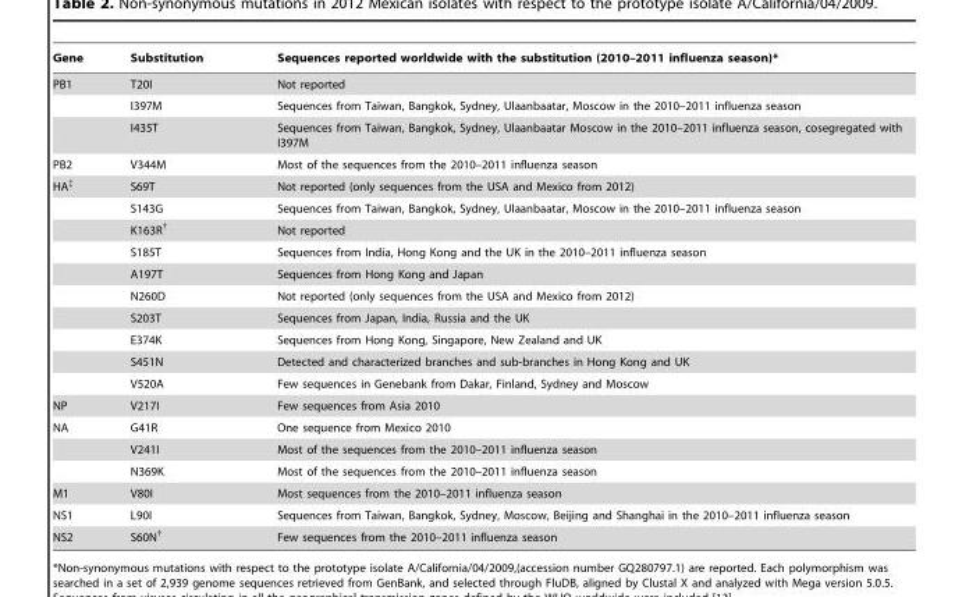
<table><thead><tr><td>Gene</td><td>Substitution</td><td>Sequences reported worldwide with the substitution (2010–2011 influenza season)*</td></tr></thead><tbody><tr><td rowspan="3">PB1</td><td>T20I</td><td>Not reported</td></tr><tr><td>I397M</td><td>Sequences from Taiwan, Bangkok, Sydney, Ulaanbaatar, Moscow in the 2010–2011 influenza season</td></tr><tr><td>I435T</td><td>Sequences from Taiwan, Bangkok, Sydney, Ulaanbaatar Moscow in the 2010–2011 influenza season, cosegregated with I397M</td></tr><tr><td>PB2</td><td>V344M</td><td>Most of the sequences from the 2010–2011 influenza season</td></tr><tr><td rowspan="10">HA‡</td><td>S69T</td><td>Not reported (only sequences from the USA and Mexico from 2012)</td></tr><tr><td>S143G</td><td>Sequences from Taiwan, Bangkok, Sydney, Ulaanbaatar, Moscow in the 2010–2011 influenza season</td></tr><tr><td>K163R†</td><td>Not reported</td></tr><tr><td>S185T</td><td>Sequences from India, Hong Kong and the UK in the 2010–2011 influenza season</td></tr><tr><td>A197T</td><td>Sequences from Hong Kong and Japan</td></tr><tr><td>N260D</td><td>Not reported (only sequences from the USA and Mexico from 2012)</td></tr><tr><td>S203T</td><td>Sequences from Japan, India, Russia and the UK</td></tr><tr><td>E374K</td><td>Sequences from Hong Kong, Singapore, New Zealand and UK</td></tr><tr><td>S451N</td><td>Detected and characterized branches and sub-branches in Hong Kong and UK</td></tr><tr><td>V520A</td><td>Few sequences in Genebank from Dakar, Finland, Sydney and Moscow</td></tr><tr><td>NP</td><td>V217I</td><td>Few sequences from Asia 2010</td></tr><tr><td rowspan="3">NA</td><td>G41R</td><td>One sequence from Mexico 2010</td></tr><tr><td>V241I</td><td>Most of the sequences from the 2010–2011 influenza season</td></tr><tr><td>N369K</td><td>Most of the sequences from the 2010–2011 influenza season</td></tr><tr><td>M1</td><td>V80I</td><td>Most sequences from the 2010–2011 influenza season</td></tr><tr><td>NS1</td><td>L90I</td><td>Sequences from Taiwan, Bangkok, Sydney, Moscow, Beijing and Shanghai in the 2010–2011 influenza season</td></tr><tr><td>NS2</td><td>S60N†</td><td>Few sequences from the 2010–2011 influenza season</td></tr></tbody></table>